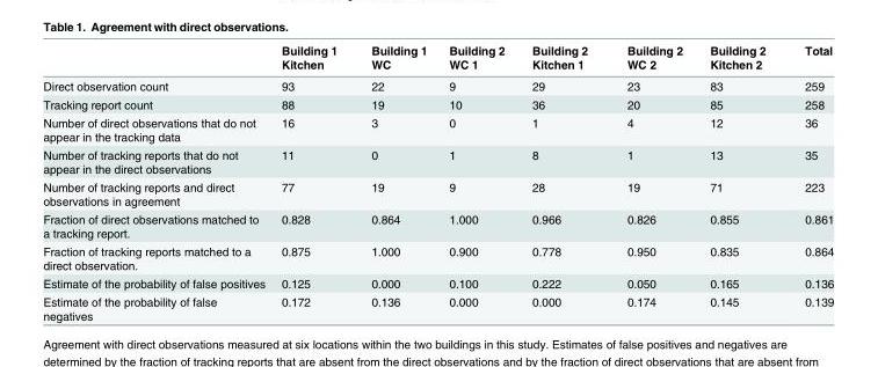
<table><thead><tr><td></td><td>Building 1 Kitchen</td><td>Building 1 WC</td><td>Building 2 WC 1</td><td>Building 2 Kitchen 1</td><td>Building 2 WC 2</td><td>Building 2 Kitchen 2</td><td>Total</td></tr></thead><tbody><tr><td>Direct observation count</td><td>93</td><td>22</td><td>9</td><td>29</td><td>23</td><td>83</td><td>259</td></tr><tr><td>Tracking report count</td><td>88</td><td>19</td><td>10</td><td>36</td><td>20</td><td>85</td><td>258</td></tr><tr><td>Number of direct observations that do not appear in the tracking data</td><td>16</td><td>3</td><td>0</td><td>1</td><td>4</td><td>12</td><td>36</td></tr><tr><td>Number of tracking reports that do not appear in the direct observations</td><td>11</td><td>0</td><td>1</td><td>8</td><td>1</td><td>13</td><td>35</td></tr><tr><td>Number of tracking reports and direct observations in agreement</td><td>77</td><td>19</td><td>9</td><td>28</td><td>19</td><td>71</td><td>223</td></tr><tr><td>Fraction of direct observations matched to a tracking report.</td><td>0.828</td><td>0.864</td><td>1.000</td><td>0.966</td><td>0.826</td><td>0.855</td><td>0.861</td></tr><tr><td>Fraction of tracking reports matched to a direct observation.</td><td>0.875</td><td>1.000</td><td>0.900</td><td>0.778</td><td>0.950</td><td>0.835</td><td>0.864</td></tr><tr><td>Estimate of the probability of false positives</td><td>0.125</td><td>0.000</td><td>0.100</td><td>0.222</td><td>0.050</td><td>0.165</td><td>0.136</td></tr><tr><td>Estimate of the probability of false negatives</td><td>0.172</td><td>0.136</td><td>0.000</td><td>0.000</td><td>0.174</td><td>0.145</td><td>0.139</td></tr></tbody></table>